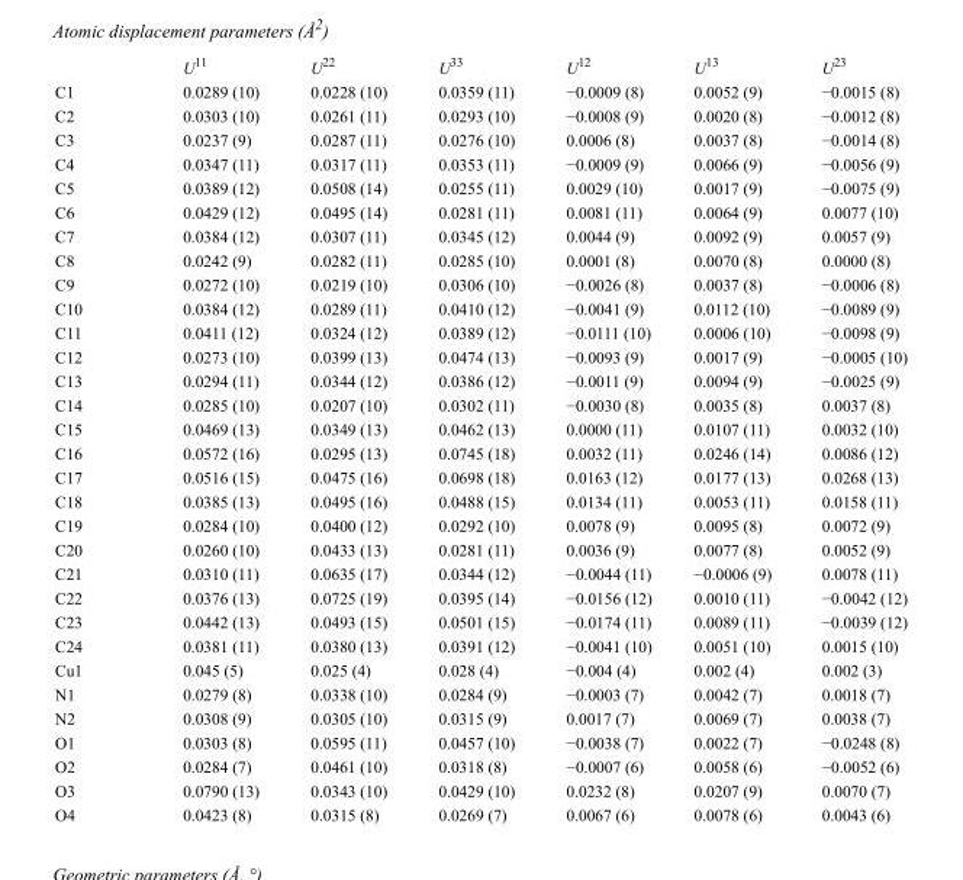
<table><thead><tr><td></td><td>U<sup>11</sup></td><td>U<sup>22</sup></td><td>U<sup>33</sup></td><td>U<sup>12</sup></td><td>U<sup>13</sup></td><td>U<sup>23</sup></td></tr></thead><tbody><tr><td>C1</td><td>0.0289 (10)</td><td>0.0228 (10)</td><td>0.0359 (11)</td><td>−0.0009 (8)</td><td>0.0052 (9)</td><td>−0.0015 (8)</td></tr><tr><td>C2</td><td>0.0303 (10)</td><td>0.0261 (11)</td><td>0.0293 (10)</td><td>−0.0008 (9)</td><td>0.0020 (8)</td><td>−0.0012 (8)</td></tr><tr><td>C3</td><td>0.0237 (9)</td><td>0.0287 (11)</td><td>0.0276 (10)</td><td>0.0006 (8)</td><td>0.0037 (8)</td><td>−0.0014 (8)</td></tr><tr><td>C4</td><td>0.0347 (11)</td><td>0.0317 (11)</td><td>0.0353 (11)</td><td>−0.0009 (9)</td><td>0.0066 (9)</td><td>−0.0056 (9)</td></tr><tr><td>C5</td><td>0.0389 (12)</td><td>0.0508 (14)</td><td>0.0255 (11)</td><td>0.0029 (10)</td><td>0.0017 (9)</td><td>−0.0075 (9)</td></tr><tr><td>C6</td><td>0.0429 (12)</td><td>0.0495 (14)</td><td>0.0281 (11)</td><td>0.0081 (11)</td><td>0.0064 (9)</td><td>0.0077 (10)</td></tr><tr><td>C7</td><td>0.0384 (12)</td><td>0.0307 (11)</td><td>0.0345 (12)</td><td>0.0044 (9)</td><td>0.0092 (9)</td><td>0.0057 (9)</td></tr><tr><td>C8</td><td>0.0242 (9)</td><td>0.0282 (11)</td><td>0.0285 (10)</td><td>0.0001 (8)</td><td>0.0070 (8)</td><td>0.0000 (8)</td></tr><tr><td>C9</td><td>0.0272 (10)</td><td>0.0219 (10)</td><td>0.0306 (10)</td><td>−0.0026 (8)</td><td>0.0037 (8)</td><td>−0.0006 (8)</td></tr><tr><td>C10</td><td>0.0384 (12)</td><td>0.0289 (11)</td><td>0.0410 (12)</td><td>−0.0041 (9)</td><td>0.0112 (10)</td><td>−0.0089 (9)</td></tr><tr><td>C11</td><td>0.0411 (12)</td><td>0.0324 (12)</td><td>0.0389 (12)</td><td>−0.0111 (10)</td><td>0.0006 (10)</td><td>−0.0098 (9)</td></tr><tr><td>C12</td><td>0.0273 (10)</td><td>0.0399 (13)</td><td>0.0474 (13)</td><td>−0.0093 (9)</td><td>0.0017 (9)</td><td>−0.0005 (10)</td></tr><tr><td>C13</td><td>0.0294 (11)</td><td>0.0344 (12)</td><td>0.0386 (12)</td><td>−0.0011 (9)</td><td>0.0094 (9)</td><td>−0.0025 (9)</td></tr><tr><td>C14</td><td>0.0285 (10)</td><td>0.0207 (10)</td><td>0.0302 (11)</td><td>−0.0030 (8)</td><td>0.0035 (8)</td><td>0.0037 (8)</td></tr><tr><td>C15</td><td>0.0469 (13)</td><td>0.0349 (13)</td><td>0.0462 (13)</td><td>0.0000 (11)</td><td>0.0107 (11)</td><td>0.0032 (10)</td></tr><tr><td>C16</td><td>0.0572 (16)</td><td>0.0295 (13)</td><td>0.0745 (18)</td><td>0.0032 (11)</td><td>0.0246 (14)</td><td>0.0086 (12)</td></tr><tr><td>C17</td><td>0.0516 (15)</td><td>0.0475 (16)</td><td>0.0698 (18)</td><td>0.0163 (12)</td><td>0.0177 (13)</td><td>0.0268 (13)</td></tr><tr><td>C18</td><td>0.0385 (13)</td><td>0.0495 (16)</td><td>0.0488 (15)</td><td>0.0134 (11)</td><td>0.0053 (11)</td><td>0.0158 (11)</td></tr><tr><td>C19</td><td>0.0284 (10)</td><td>0.0400 (12)</td><td>0.0292 (10)</td><td>0.0078 (9)</td><td>0.0095 (8)</td><td>0.0072 (9)</td></tr><tr><td>C20</td><td>0.0260 (10)</td><td>0.0433 (13)</td><td>0.0281 (11)</td><td>0.0036 (9)</td><td>0.0077 (8)</td><td>0.0052 (9)</td></tr><tr><td>C21</td><td>0.0310 (11)</td><td>0.0635 (17)</td><td>0.0344 (12)</td><td>−0.0044 (11)</td><td>−0.0006 (9)</td><td>0.0078 (11)</td></tr><tr><td>C22</td><td>0.0376 (13)</td><td>0.0725 (19)</td><td>0.0395 (14)</td><td>−0.0156 (12)</td><td>0.0010 (11)</td><td>−0.0042 (12)</td></tr><tr><td>C23</td><td>0.0442 (13)</td><td>0.0493 (15)</td><td>0.0501 (15)</td><td>−0.0174 (11)</td><td>0.0089 (11)</td><td>−0.0039 (12)</td></tr><tr><td>C24</td><td>0.0381 (11)</td><td>0.0380 (13)</td><td>0.0391 (12)</td><td>−0.0041 (10)</td><td>0.0051 (10)</td><td>0.0015 (10)</td></tr><tr><td>Cu1</td><td>0.045 (5)</td><td>0.025 (4)</td><td>0.028 (4)</td><td>−0.004 (4)</td><td>0.002 (4)</td><td>0.002 (3)</td></tr><tr><td>N1</td><td>0.0279 (8)</td><td>0.0338 (10)</td><td>0.0284 (9)</td><td>−0.0003 (7)</td><td>0.0042 (7)</td><td>0.0018 (7)</td></tr><tr><td>N2</td><td>0.0308 (9)</td><td>0.0305 (10)</td><td>0.0315 (9)</td><td>0.0017 (7)</td><td>0.0069 (7)</td><td>0.0038 (7)</td></tr><tr><td>O1</td><td>0.0303 (8)</td><td>0.0595 (11)</td><td>0.0457 (10)</td><td>−0.0038 (7)</td><td>0.0022 (7)</td><td>−0.0248 (8)</td></tr><tr><td>O2</td><td>0.0284 (7)</td><td>0.0461 (10)</td><td>0.0318 (8)</td><td>−0.0007 (6)</td><td>0.0058 (6)</td><td>−0.0052 (6)</td></tr><tr><td>O3</td><td>0.0790 (13)</td><td>0.0343 (10)</td><td>0.0429 (10)</td><td>0.0232 (8)</td><td>0.0207 (9)</td><td>0.0070 (7)</td></tr><tr><td>O4</td><td>0.0423 (8)</td><td>0.0315 (8)</td><td>0.0269 (7)</td><td>0.0067 (6)</td><td>0.0078 (6)</td><td>0.0043 (6)</td></tr></tbody></table>